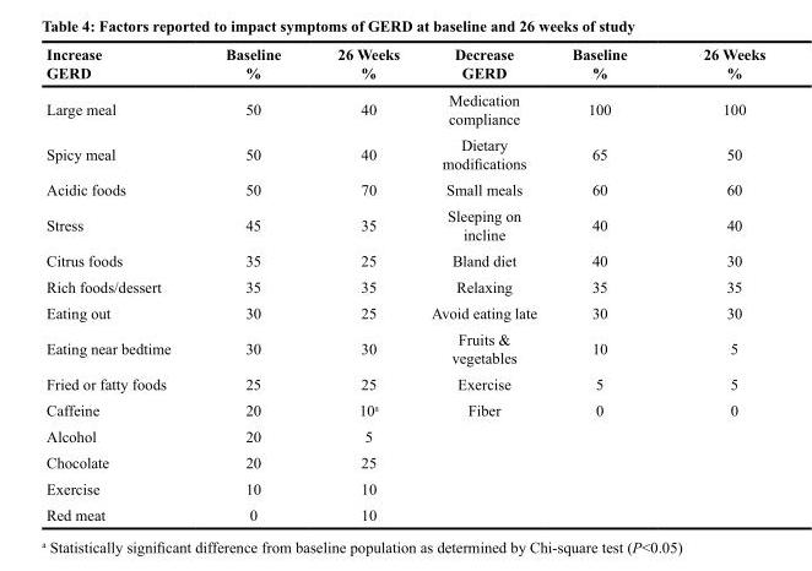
<table><thead><tr><td>Increase GERD</td><td>Baseline %</td><td>26 Weeks %</td><td>Decrease GERD</td><td>Baseline %</td><td>26 Weeks %</td></tr></thead><tbody><tr><td>Large meal</td><td>50</td><td>40</td><td>Medication compliance</td><td>100</td><td>100</td></tr><tr><td>Spicy meal</td><td>50</td><td>40</td><td>Dietary modifications</td><td>65</td><td>50</td></tr><tr><td>Acidic foods</td><td>50</td><td>70</td><td>Small meals</td><td>60</td><td>60</td></tr><tr><td>Stress</td><td>45</td><td>35</td><td>Sleeping on incline</td><td>40</td><td>40</td></tr><tr><td>Citrus foods</td><td>35</td><td>25</td><td>Bland diet</td><td>40</td><td>30</td></tr><tr><td>Rich foods/dessert</td><td>35</td><td>35</td><td>Relaxing</td><td>35</td><td>35</td></tr><tr><td>Eating out</td><td>30</td><td>25</td><td>Avoid eating late</td><td>30</td><td>30</td></tr><tr><td>Eating near bedtime</td><td>30</td><td>30</td><td>Fruits &amp; vegetables</td><td>10</td><td>5</td></tr><tr><td>Fried or fatty foods</td><td>25</td><td>25</td><td>Exercise</td><td>5</td><td>5</td></tr><tr><td>Caffeine</td><td>20</td><td>10<sup>a</sup></td><td>Fiber</td><td>0</td><td>0</td></tr><tr><td>Alcohol</td><td>20</td><td>5</td><td></td><td></td><td></td></tr><tr><td>Chocolate</td><td>20</td><td>25</td><td></td><td></td><td></td></tr><tr><td>Exercise</td><td>10</td><td>10</td><td></td><td></td><td></td></tr><tr><td>Red meat</td><td>0</td><td>10</td><td></td><td></td><td></td></tr></tbody></table>